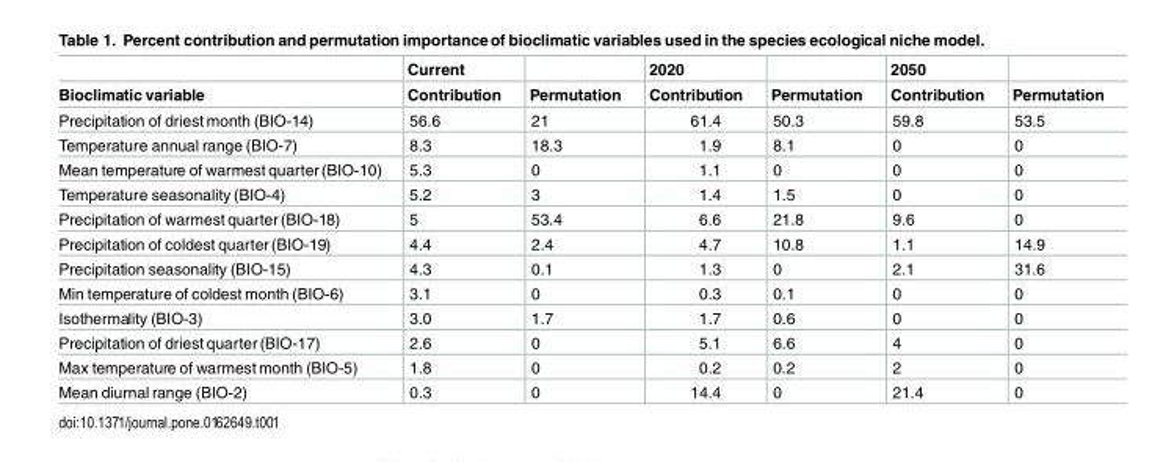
<table><thead><tr><td rowspan="2">Bioclimatic variable</td><td rowspan="2">Current Contribution</td><td rowspan="2">Permutation</td><td rowspan="2">2020 Contribution</td><td rowspan="2">Permutation</td><td rowspan="2">2050 Contribution</td><td rowspan="2">Permutation</td></tr><tr></tr></thead><tbody><tr><td>Precipitation of driest month (BIO-14)</td><td>56.6</td><td>21</td><td>61.4</td><td>50.3</td><td>59.8</td><td>53.5</td></tr><tr><td>Temperature annual range (BIO-7)</td><td>8.3</td><td>18.3</td><td>1.9</td><td>8.1</td><td>0</td><td>0</td></tr><tr><td>Mean temperature of warmest quarter(BIO-10)</td><td>5.3</td><td>0</td><td>1.1</td><td>0</td><td>0</td><td>0</td></tr><tr><td>Temperature seasonality (BIO-4)</td><td>5.2</td><td>3</td><td>1.4</td><td>1.5</td><td>0</td><td>0</td></tr><tr><td>Precipitation of warmest quarter(BIO-18)</td><td>5</td><td>53.4</td><td>6.6</td><td>21.8</td><td>9.6</td><td>0</td></tr><tr><td>Precipitation of coldest quarter(BIO-19)</td><td>4.4</td><td>2.4</td><td>4.7</td><td>10.8</td><td>1.1</td><td>14.9</td></tr><tr><td>Precipitation seasonality (BIO-15)</td><td>4.3</td><td>0.1</td><td>1.3</td><td>0</td><td>2.1</td><td>31.6</td></tr><tr><td>Min temperature of coldest month (BIO-6)</td><td>3.1</td><td>0</td><td>0.3</td><td>0.1</td><td>0</td><td>0</td></tr><tr><td>Isothermality (BIO-3)</td><td>3.0</td><td>1.7</td><td>1.7</td><td>0.6</td><td>0</td><td>0</td></tr><tr><td>Precipitation of driest quarter(BIO-17)</td><td>2.6</td><td>0</td><td>5.1</td><td>6.6</td><td>4</td><td>0</td></tr><tr><td>Max temperature of warmest month (BIO-5)</td><td>1.8</td><td>0</td><td>0.2</td><td>0.2</td><td>2</td><td>0</td></tr><tr><td>Mean diurnal range (BIO-2)</td><td>0.3</td><td>0</td><td>14.4</td><td>0</td><td>21.4</td><td>0</td></tr></tbody></table>